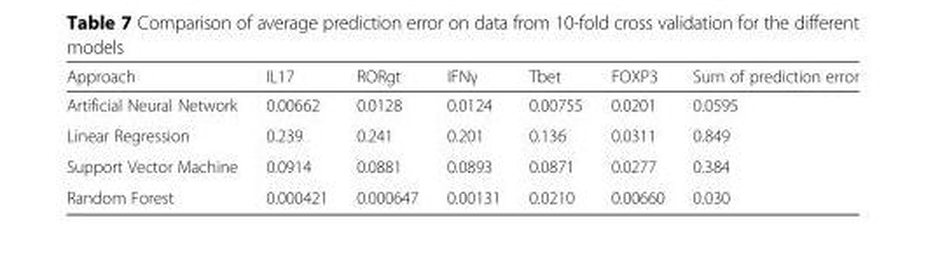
<table><thead><tr><td>Approach</td><td>IL17</td><td>RORgt</td><td>IFNγ</td><td>Tbet</td><td>FOXP3</td><td>Sum of prediction error</td></tr></thead><tbody><tr><td>Artificial Neural Network</td><td>0.00662</td><td>0.0128</td><td>0.0124</td><td>0.00755</td><td>0.0201</td><td>0.0595</td></tr><tr><td>Linear Regression</td><td>0.239</td><td>0.241</td><td>0.201</td><td>0.136</td><td>0.0311</td><td>0.849</td></tr><tr><td>Support Vector Machine</td><td>0.0914</td><td>0.0881</td><td>0.0893</td><td>0.0871</td><td>0.0277</td><td>0.384</td></tr><tr><td>Random Forest</td><td>0.000421</td><td>0.000647</td><td>0.00131</td><td>0.0210</td><td>0.00660</td><td>0.030</td></tr></tbody></table>